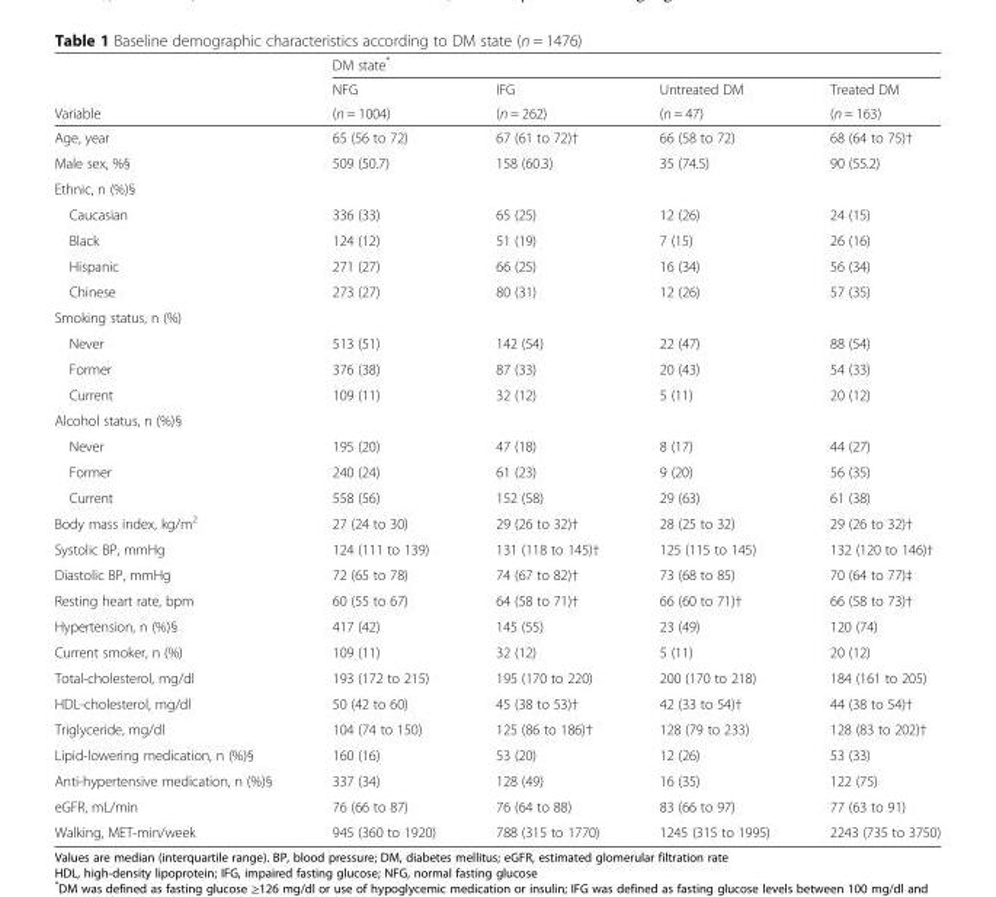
<table><thead><tr><td rowspan="3">Variable</td><td colspan="4">DM state*</td></tr><tr><td rowspan="2">NFG (n = 1004)</td><td rowspan="2">IFG (n = 262)</td><td rowspan="2">Untreated DM (n = 47)</td><td rowspan="2">Treated DM (n = 163)</td></tr><tr></tr></thead><tbody><tr><td>Age, year</td><td>65 (56 to 72)</td><td>67 (61 to 72)†</td><td>66 (58 to 72)</td><td>68 (64 to 75)†</td></tr><tr><td>Male sex, %§</td><td>509 (50.7)</td><td>158 (60.3)</td><td>35 (74.5)</td><td>90 (55.2)</td></tr><tr><td colspan="5">Ethnic, n (%)§</td></tr><tr><td>Caucasian</td><td>336 (33)</td><td>65 (25)</td><td>12 (26)</td><td>24 (15)</td></tr><tr><td>Black</td><td>124 (12)</td><td>51 (19)</td><td>7 (15)</td><td>26 (16)</td></tr><tr><td>Hispanic</td><td>271 (27)</td><td>66 (25)</td><td>16 (34)</td><td>56 (34)</td></tr><tr><td>Chinese</td><td>273 (27)</td><td>80 (31)</td><td>12 (26)</td><td>57 (35)</td></tr><tr><td colspan="5">Smoking status, n (%)</td></tr><tr><td>Never</td><td>513 (51)</td><td>142 (54)</td><td>22 (47)</td><td>88 (54)</td></tr><tr><td>Former</td><td>376 (38)</td><td>87 (33)</td><td>20 (43)</td><td>54 (33)</td></tr><tr><td>Current</td><td>109 (11)</td><td>32 (12)</td><td>5 (11)</td><td>20 (12)</td></tr><tr><td colspan="5">Alcohol status, n (%)§</td></tr><tr><td>Never</td><td>195 (20)</td><td>47 (18)</td><td>8 (17)</td><td>44 (27)</td></tr><tr><td>Former</td><td>240 (24)</td><td>61 (23)</td><td>9 (20)</td><td>56 (35)</td></tr><tr><td>Current</td><td>558 (56)</td><td>152 (58)</td><td>29 (63)</td><td>61 (38)</td></tr><tr><td>Body mass index, kg/m<sup>2</sup></td><td>27 (24 to 30)</td><td>29 (26 to 32)†</td><td>28 (25 to 32)</td><td>29 (26 to 32)†</td></tr><tr><td>Systolic BP, mmHg</td><td>124 (111 to 139)</td><td>131 (118 to 145)†</td><td>125 (115 to 145)</td><td>132 (120 to 146)†</td></tr><tr><td>Diastolic BP, mmHg</td><td>72 (65 to 78)</td><td>74 (67 to 82)†</td><td>73 (68 to 85)</td><td>70 (64 to 77)‡</td></tr><tr><td>Resting heart rate, bpm</td><td>60 (55 to 67)</td><td>64 (58 to 71)†</td><td>66 (60 to 71)†</td><td>66 (58 to 73)†</td></tr><tr><td>Hypertension, n (%)§</td><td>417 (42)</td><td>145 (55)</td><td>23 (49)</td><td>120 (74)</td></tr><tr><td>Current smoker, n (%)</td><td>109 (11)</td><td>32 (12)</td><td>5 (11)</td><td>20 (12)</td></tr><tr><td>Total-cholesterol, mg/dl</td><td>193 (172 to 215)</td><td>195 (170 to 220)</td><td>200 (170 to 218)</td><td>184 (161 to 205)</td></tr><tr><td>HDL-cholesterol, mg/dl</td><td>50 (42 to 60)</td><td>45 (38 to 53)†</td><td>42 (33 to 54)†</td><td>44 (38 to 54)†</td></tr><tr><td>Triglyceride, mg/dl</td><td>104 (74 to 150)</td><td>125 (86 to 186)†</td><td>128 (79 to 233)</td><td>128 (83 to 202)†</td></tr><tr><td>Lipid-lowering medication, n (%)§</td><td>160 (16)</td><td>53 (20)</td><td>12 (26)</td><td>53 (33)</td></tr><tr><td>Anti-hypertensive medication, n (%)§</td><td>337 (34)</td><td>128 (49)</td><td>16 (35)</td><td>122 (75)</td></tr><tr><td>eGFR, mL/min</td><td>76 (66 to 87)</td><td>76 (64 to 88)</td><td>83 (66 to 97)</td><td>77 (63 to 91)</td></tr><tr><td>Walking, MET-min/week</td><td>945 (360 to 1920)</td><td>788 (315 to 1770)</td><td>1245 (315 to 1995)</td><td>2243 (735 to 3750)</td></tr></tbody></table>